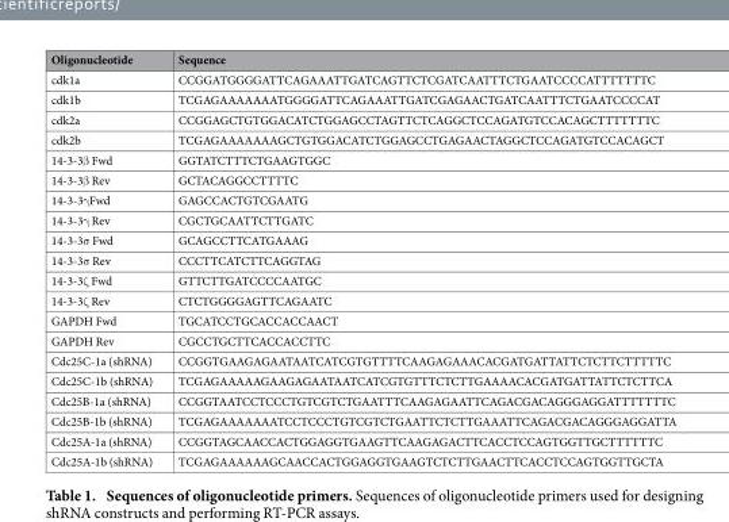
<table><thead><tr><td>Oligonucleotide</td><td>Sequence</td></tr></thead><tbody><tr><td>cdk1a</td><td>CCGGATGGGGATTCAGAAATTGATCAGTTCTCGATCAATTTCTGAATCCCCATTTTTTTC</td></tr><tr><td>cdk1b</td><td>TCGAGAAAAAAATGGGGATTCAGAAATTGATCGAGAACTGATCAATTTCTGAATCCCCAT</td></tr><tr><td>cdk2a</td><td>CCGGAGCTGTGGACATCTGGAGCCTAGTTCTCAGGCTCCAGATGTCCACAGCTTTTTTTC</td></tr><tr><td>cdk2b</td><td>TCGAGAAAAAAAGCTGTGGACATCTGGAGCCTGAGAACTAGGCTCCAGATGTCCACAGCT</td></tr><tr><td>14-3-3β Fwd</td><td>GGTATCTTTCTGAAGTGGC</td></tr><tr><td>14-3-3β Rev</td><td>GCTACAGGCCTTTTC</td></tr><tr><td>14-3-3γ Fwd</td><td>GAGCCACTGTCGAATG</td></tr><tr><td>14-3-3γ Rev</td><td>CGCTGCAATTCTTGATC</td></tr><tr><td>14-3-3σ Fwd</td><td>GCAGCCTTCATGAAAG</td></tr><tr><td>14-3-3σ Rev</td><td>CCCTTCATCTTCAGGTAG</td></tr><tr><td>14-3-3ζ Fwd</td><td>GTTCTTGATCCCCAATGC</td></tr><tr><td>14-3-3ζ Rev</td><td>CTCTGGGGAGTTCAGAATC</td></tr><tr><td>GAPDH Fwd</td><td>TGCATCCTGCACCACCAACT</td></tr><tr><td>GAPDH Rev</td><td>CGCCTGCTTCACCACCTTC</td></tr><tr><td>Cdc25C-1a (shRNA)</td><td>CCGGTGAAGAGAATAATCATCGTGTTTTCAAGAGAAACACGATGATTATTCTCTTCTTTTTC</td></tr><tr><td>Cdc25C-1b (shRNA)</td><td>TCGAGAAAAAGAAGAGAATAATCATCGTGTTTCTCTTGAAAACACGATGATTATTCTCTTCA</td></tr><tr><td>Cdc25B-1a (shRNA)</td><td>CCGGTAATCCTCCCTGTCGTCTGAATTTCAAGAGAATTCAGACGACAGGGAGGATTTTTTTC</td></tr><tr><td>Cdc25B-1b (shRNA)</td><td>TCGAGAAAAAAATCCTCCCTGTCGTCTGAATTCTCTTGAAATTCAGACGACAGGGAGGATTA</td></tr><tr><td>Cdc25A-1a (shRNA)</td><td>CCGGTAGCAACCACTGGAGGTGAAGTTCAAGAGACTTCACCTCCAGTGGTTGCTTTTTTC</td></tr><tr><td>Cdc25A-1b (shRNA)</td><td>TCGAGAAAAAAGCAACCACTGGAGGTGAAGTCTCTTGAACTTCACCTCCAGTGGTTGCTA</td></tr></tbody></table>